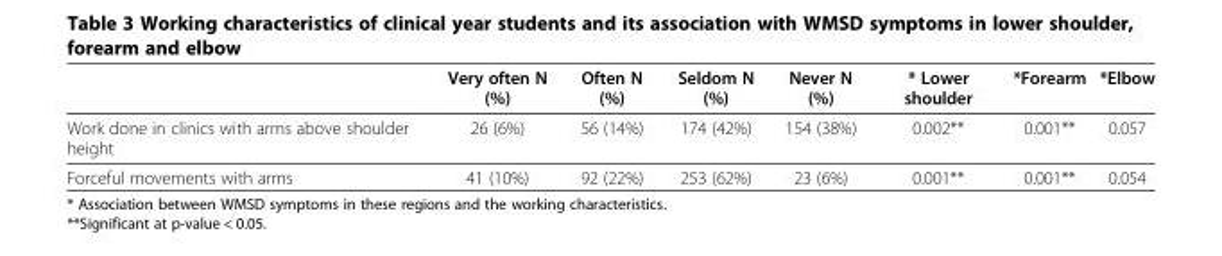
<table><thead><tr><td></td><td>Very often N (%)</td><td>Often N (%)</td><td>Seldom N (%)</td><td>Never N (%)</td><td>* Lower shoulder</td><td>*Forearm</td><td>*Elbow</td></tr></thead><tbody><tr><td>Work done in clinics with arms above shoulder height</td><td>26 (6%)</td><td>56 (14%)</td><td>174 (42%)</td><td>154 (38%)</td><td>0.002**</td><td>0.001**</td><td>0.057</td></tr><tr><td>Forceful movements with arms</td><td>41 (10%)</td><td>92 (22%)</td><td>253 (62%)</td><td>23 (6%)</td><td>0.001**</td><td>0.001**</td><td>0.054</td></tr></tbody></table>